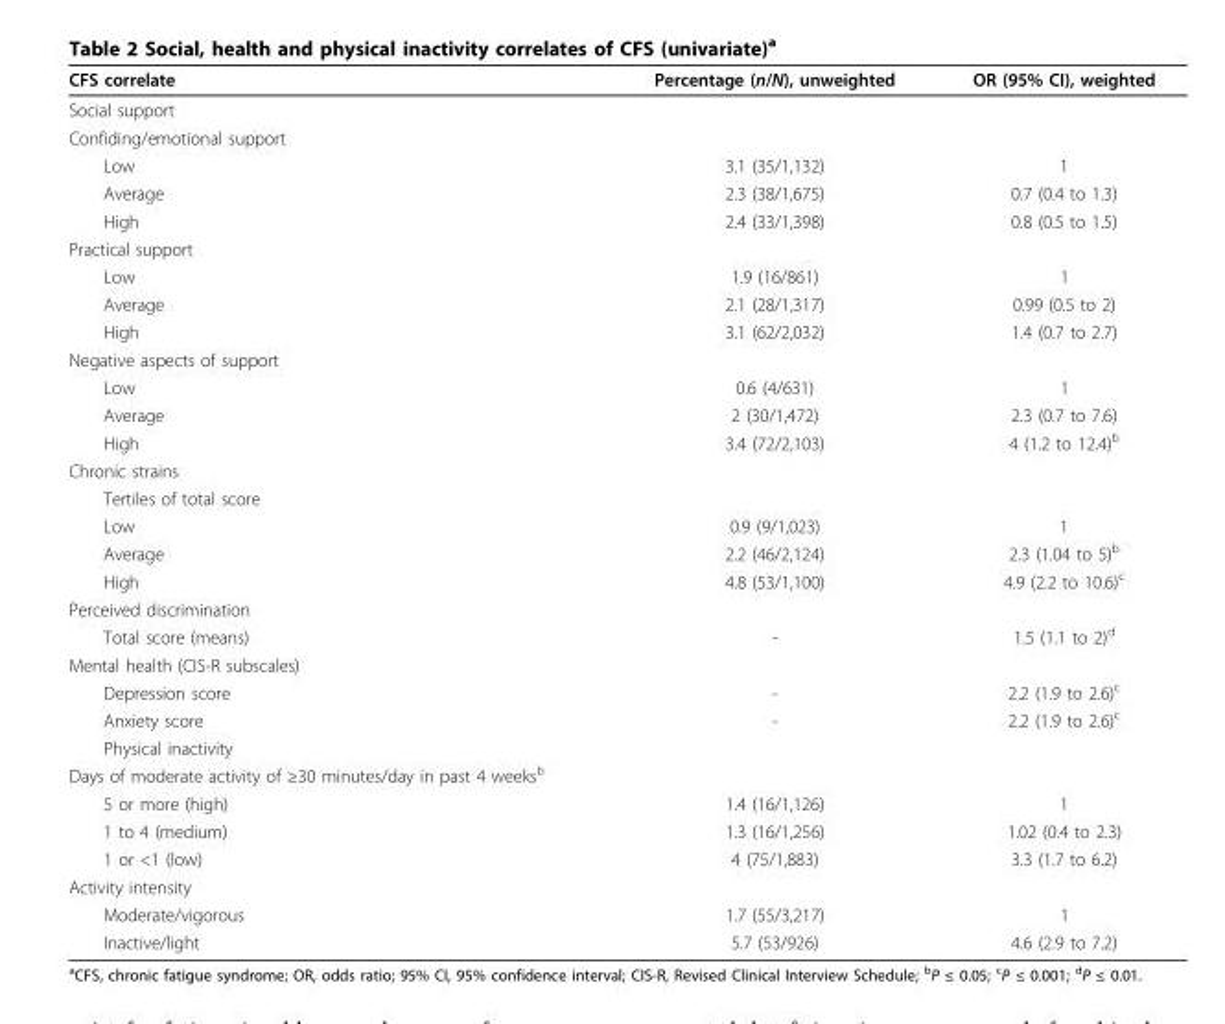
<table><thead><tr><td>CFS correlate</td><td>Percentage (n/N), unweighted</td><td>OR (95% CI), weighted</td></tr></thead><tbody><tr><td colspan="3">Social support</td></tr><tr><td colspan="3">Confiding/emotional support</td></tr><tr><td>Low</td><td>3.1 (35/1,132)</td><td>1</td></tr><tr><td>Average</td><td>2.3 (38/1,675)</td><td>0.7 (0.4 to 1.3)</td></tr><tr><td>High</td><td>2.4 (33/1,398)</td><td>0.8 (0.5 to 1.5)</td></tr><tr><td colspan="3">Practical support</td></tr><tr><td>Low</td><td>1.9 (16/861)</td><td>1</td></tr><tr><td>Average</td><td>2.1 (28/1,317)</td><td>0.99 (0.5 to 2)</td></tr><tr><td>High</td><td>3.1 (62/2,032)</td><td>1.4 (0.7 to 2.7)</td></tr><tr><td colspan="3">Negative aspects of support</td></tr><tr><td>Low</td><td>0.6 (4/631)</td><td>1</td></tr><tr><td>Average</td><td>2 (30/1,472)</td><td>2.3 (0.7 to 7.6)</td></tr><tr><td>High</td><td>3.4 (72/2,103)</td><td>4 (1.2 to 12.4)<sup>b</sup></td></tr><tr><td colspan="3">Chronic strains</td></tr><tr><td colspan="3">Tertiles of total score</td></tr><tr><td>Low</td><td>0.9 (9/1,023)</td><td>1</td></tr><tr><td>Average</td><td>2.2 (46/2,124)</td><td>2.3 (1.04 to 5)<sup>b</sup></td></tr><tr><td>High</td><td>4.8 (53/1,100)</td><td>4.9 (2.2 to 10.6)<sup>c</sup></td></tr><tr><td colspan="3">Perceived discrimination</td></tr><tr><td>Total score (means)</td><td>-</td><td>1.5 (1.1 to 2)<sup>d</sup></td></tr><tr><td colspan="3">Mental health (CIS-R subscales)</td></tr><tr><td>Depression score</td><td>-</td><td>2.2 (1.9 to 2.6)<sup>c</sup></td></tr><tr><td>Anxiety score</td><td>-</td><td>2.2 (1.9 to 2.6)<sup>c</sup></td></tr><tr><td colspan="3">Physical inactivity</td></tr><tr><td colspan="3">Days of moderate activity of ≥30 minutes/day in past 4 weeks<sup>b</sup></td></tr><tr><td>5 or more (high)</td><td>1.4 (16/1,126)</td><td>1</td></tr><tr><td>1 to 4 (medium)</td><td>1.3 (16/1,256)</td><td>1.02 (0.4 to 2.3)</td></tr><tr><td>1 or &lt;1 (low)</td><td>4 (75/1,883)</td><td>3.3 (1.7 to 6.2)</td></tr><tr><td colspan="3">Activity intensity</td></tr><tr><td>Moderate/vigorous</td><td>1.7 (55/3,217)</td><td>1</td></tr><tr><td>Inactive/light</td><td>5.7 (53/926)</td><td>4.6 (2.9 to 7.2)</td></tr></tbody></table>